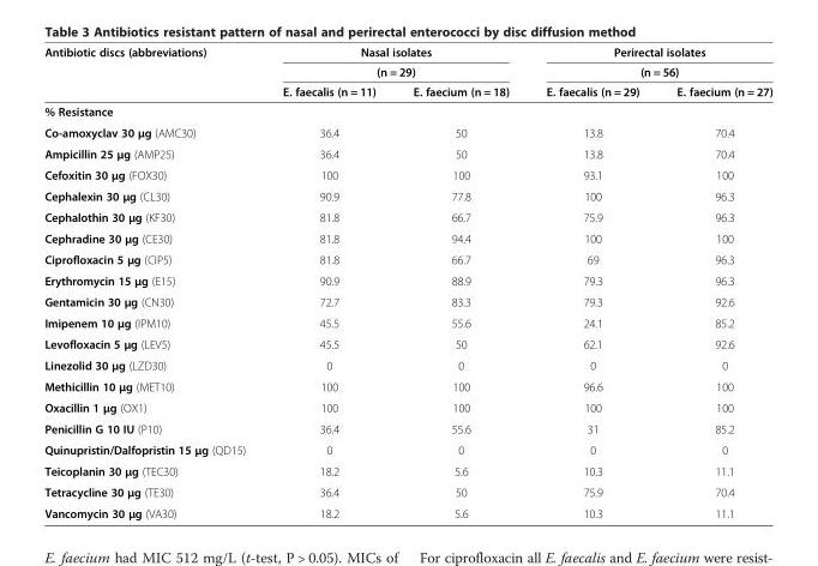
<table><thead><tr><td rowspan="3">Antibiotic discs (abbreviations)</td><td rowspan="2" colspan="2">Nasal isolates (n = 29)</td><td rowspan="2" colspan="2">Perirectal isolates (n = 56)</td></tr><tr></tr><tr><td>E. faecalis (n = 11)</td><td>E. faecium (n = 18)</td><td>E. faecalis (n = 29)</td><td>E. faecium (n = 27)</td></tr></thead><tbody><tr><td colspan="5">% Resistance</td></tr><tr><td>Co-amoxyclav 30 μg (AMC30)</td><td>36.4</td><td>50</td><td>13.8</td><td>70.4</td></tr><tr><td>Ampicillin 25 μg (AMP25)</td><td>36.4</td><td>50</td><td>13.8</td><td>70.4</td></tr><tr><td>Cefoxitin 30 μg (FOX30)</td><td>100</td><td>100</td><td>93.1</td><td>100</td></tr><tr><td>Cephalexin 30 μg (CL30)</td><td>90.9</td><td>77.8</td><td>100</td><td>96.3</td></tr><tr><td>Cephalothin 30 μg (KF30)</td><td>81.8</td><td>66.7</td><td>75.9</td><td>96.3</td></tr><tr><td>Cephradine 30 μg (CE30)</td><td>81.8</td><td>94.4</td><td>100</td><td>100</td></tr><tr><td>Ciprofloxacin 5 μg (CIP5)</td><td>81.8</td><td>66.7</td><td>69</td><td>96.3</td></tr><tr><td>Erythromycin 15 μg (E15)</td><td>90.9</td><td>88.9</td><td>79.3</td><td>96.3</td></tr><tr><td>Gentamicin 30 μg (CN30)</td><td>72.7</td><td>83.3</td><td>79.3</td><td>92.6</td></tr><tr><td>Imipenem 10 μg (IPM10)</td><td>45.5</td><td>55.6</td><td>24.1</td><td>85.2</td></tr><tr><td>Levofloxacin 5 μg (LEV5)</td><td>45.5</td><td>50</td><td>62.1</td><td>92.6</td></tr><tr><td>Linezolid 30 μg (LZD30)</td><td>0</td><td>0</td><td>0</td><td>0</td></tr><tr><td>Methicillin 10 μg (MET10)</td><td>100</td><td>100</td><td>96.6</td><td>100</td></tr><tr><td>Oxacillin 1 μg (OX1)</td><td>100</td><td>100</td><td>100</td><td>100</td></tr><tr><td>Penicillin G 10 IU (P10)</td><td>36.4</td><td>55.6</td><td>31</td><td>85.2</td></tr><tr><td>Quinupristin/Dalfopristin 15 μg (QD15)</td><td>0</td><td>0</td><td>0</td><td>0</td></tr><tr><td>Teicoplanin 30 μg (TEC30)</td><td>18.2</td><td>5.6</td><td>10.3</td><td>11.1</td></tr><tr><td>Tetracycline 30 μg (TE30)</td><td>36.4</td><td>50</td><td>75.9</td><td>70.4</td></tr><tr><td>Vancomycin 30 μg (VA30)</td><td>18.2</td><td>5.6</td><td>10.3</td><td>11.1</td></tr></tbody></table>